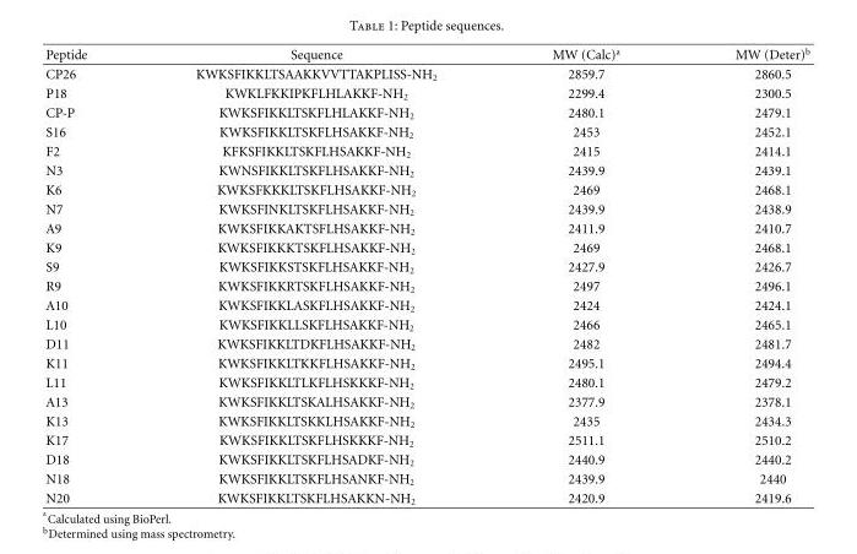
<table><thead><tr><td>Peptide</td><td>Sequence</td><td>MW (Calc)<sup>a</sup></td><td>MW (Deter)<sup>b</sup></td></tr></thead><tbody><tr><td>CP26</td><td>KWKSFIKKLTSAAKKVVTTAKPLISS-NH<sub>2</sub></td><td>2859.7</td><td>2860.5</td></tr><tr><td>P18</td><td>KWKLFKKIPKFLHLAKKF-NH<sub>2</sub></td><td>2299.4</td><td>2300.5</td></tr><tr><td>CP-P</td><td>KWKSFIKKLTSKFLHLAKKF-NH<sub>2</sub></td><td>2480.1</td><td>2479.1</td></tr><tr><td>S16</td><td>KWKSFIKKLTSKFLHSAKKF-NH<sub>2</sub></td><td>2453</td><td>2452.1</td></tr><tr><td>F2</td><td>KFKSFIKKLTSKFLHSAKKF-NH<sub>2</sub></td><td>2415</td><td>2414.1</td></tr><tr><td>N3</td><td>KWNSFIKKLTSKFLHSAKKF-NH<sub>2</sub></td><td>2439.9</td><td>2439.1</td></tr><tr><td>K6</td><td>KWKSFKKKLTSKFLHSAKKF-NH<sub>2</sub></td><td>2469</td><td>2468.1</td></tr><tr><td>N7</td><td>KWKSFINKLTSKFLHSAKKF-NH<sub>2</sub></td><td>2439.9</td><td>2438.9</td></tr><tr><td>A9</td><td>KWKSFIKKAKTSFLHSAKKF-NH<sub>2</sub></td><td>2411.9</td><td>2410.7</td></tr><tr><td>K9</td><td>KWKSFIKKKTSKFLHSAKKF-NH<sub>2</sub></td><td>2469</td><td>2468.1</td></tr><tr><td>S9</td><td>KWKSFIKKSTSKFLHSAKKF-NH<sub>2</sub></td><td>2427.9</td><td>2426.7</td></tr><tr><td>R9</td><td>KWKSFIKKRTSKFLHSAKKF-NH<sub>2</sub></td><td>2497</td><td>2496.1</td></tr><tr><td>A10</td><td>KWKSFIKKLASKFLHSAKKF-NH<sub>2</sub></td><td>2424</td><td>2424.1</td></tr><tr><td>L10</td><td>KWKSFIKKLLSKFLHSAKKF-NH<sub>2</sub></td><td>2466</td><td>2465.1</td></tr><tr><td>D11</td><td>KWKSFIKKLTDKFLHSAKKF-NH<sub>2</sub></td><td>2482</td><td>2481.7</td></tr><tr><td>K11</td><td>KWKSFIKKLTKKFLHSAKKF-NH<sub>2</sub></td><td>2495.1</td><td>2494.4</td></tr><tr><td>L11</td><td>KWKSFIKKLTLKFLHSKKKF-NH<sub>2</sub></td><td>2480.1</td><td>2479.2</td></tr><tr><td>A13</td><td>KWKSFIKKLTSKALHSAKKF-NH<sub>2</sub></td><td>2377.9</td><td>2378.1</td></tr><tr><td>K13</td><td>KWKSFIKKLTSKKLHSAKKF-NH<sub>2</sub></td><td>2435</td><td>2434.3</td></tr><tr><td>K17</td><td>KWKSFIKKLTSKFLHSKKKF-NH<sub>2</sub></td><td>2511.1</td><td>2510.2</td></tr><tr><td>D18</td><td>KWKSFIKKLTSKFLHSADKF-NH<sub>2</sub></td><td>2440.9</td><td>2440.2</td></tr><tr><td>N18</td><td>KWKSFIKKLTSKFLHSANKF-NH<sub>2</sub></td><td>2439.9</td><td>2440</td></tr><tr><td>N20</td><td>KWKSFIKKLTSKFLHSAKKN-NH<sub>2</sub></td><td>2420.9</td><td>2419.6</td></tr></tbody></table>